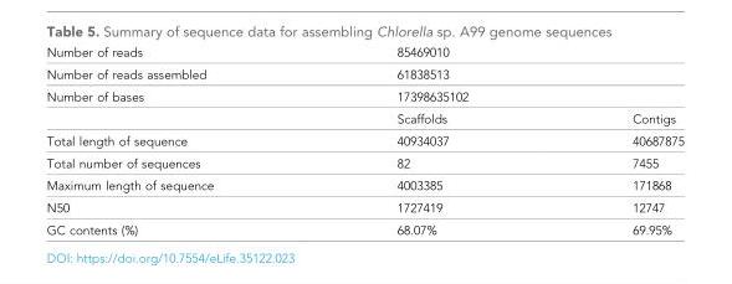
<table><tbody><tr><td>Number of reads</td><td colspan="2">85469010</td></tr><tr><td>Number of reads assembled</td><td colspan="2">61838513</td></tr><tr><td rowspan="2">Number of bases</td><td colspan="2">17398635102</td></tr><tr><td>Scaffolds</td><td>Contigs</td></tr><tr><td>Total length of sequence</td><td>40934037</td><td>40687875</td></tr><tr><td>Total number of sequences</td><td>82</td><td>7455</td></tr><tr><td>Maximum length of sequence</td><td>4003385</td><td>171868</td></tr><tr><td>N50</td><td>1727419</td><td>12747</td></tr><tr><td>GC contents (%)</td><td>68.07%</td><td>69.95%</td></tr></tbody></table>